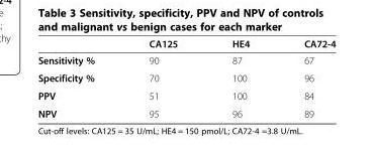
<table><thead><tr><td></td><td>CA125</td><td>HE4</td><td>CA72-4</td></tr></thead><tbody><tr><td>Sensitivity %</td><td>90</td><td>87</td><td>67</td></tr><tr><td>Specificity %</td><td>70</td><td>100</td><td>96</td></tr><tr><td>PPV</td><td>51</td><td>100</td><td>84</td></tr><tr><td>NPV</td><td>95</td><td>96</td><td>89</td></tr></tbody></table>